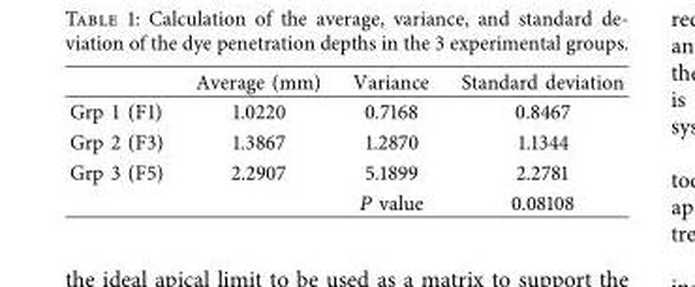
<table><thead><tr><td></td><td>Average (mm)</td><td>Variance</td><td>Standard deviation</td></tr></thead><tbody><tr><td>Grp 1 (F1)</td><td>1.0220</td><td>0.7168</td><td>0.8467</td></tr><tr><td>Grp 2 (F3)</td><td>1.3867</td><td>1.2870</td><td>1.1344</td></tr><tr><td>Grp 3 (F5)</td><td>2.2907</td><td>5.1899</td><td>2.2781</td></tr><tr><td colspan="2"></td><td>P value</td><td>0.08108</td></tr></tbody></table>